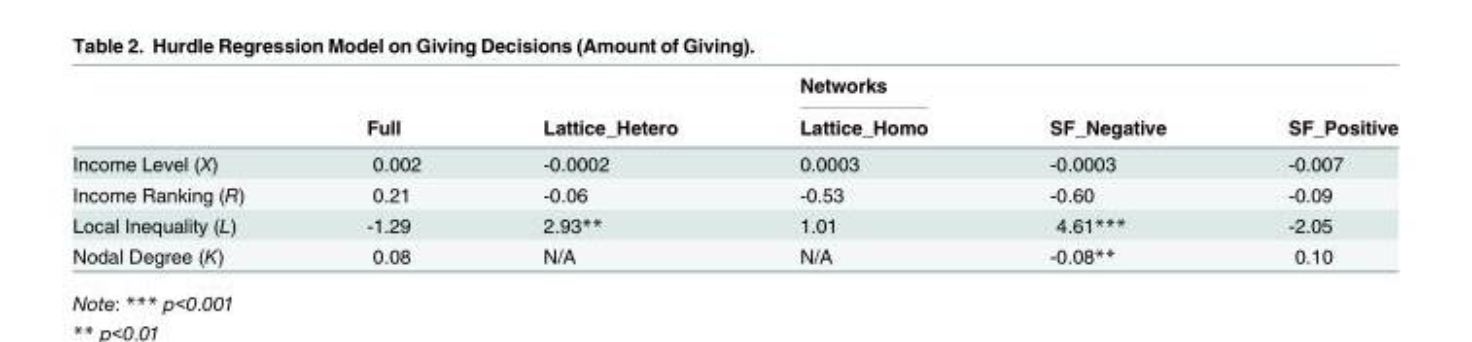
<table><thead><tr><td rowspan="2"></td><td rowspan="2">Full</td><td rowspan="2">Lattice_Hetero</td><td rowspan="2">Networks Lattice_Homo</td><td rowspan="2">SF_Negative</td><td rowspan="2">SF_Positive</td></tr><tr></tr></thead><tbody><tr><td>Income Level (X)</td><td>0.002</td><td>-0.0002</td><td>0.0003</td><td>-0.0003</td><td>-0.007</td></tr><tr><td>Income Ranking (R)</td><td>0.21</td><td>-0.06</td><td>-0.53</td><td>-0.60</td><td>-0.09</td></tr><tr><td>Local Inequality (L)</td><td>-1.29</td><td>2.93**</td><td>1.01</td><td>4.61***</td><td>-2.05</td></tr><tr><td>Nodal Degree (K)</td><td>0.08</td><td>N/A</td><td>N/A</td><td>-0.08**</td><td>0.10</td></tr></tbody></table>